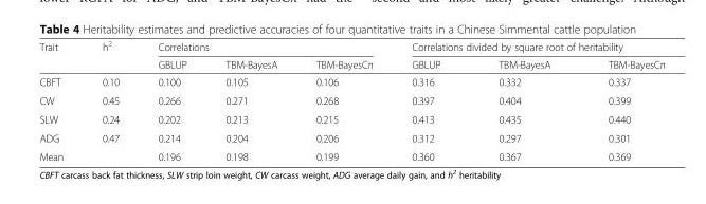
<table><thead><tr><td rowspan="2">Trait</td><td rowspan="2">h<sup>2</sup></td><td colspan="3">Correlations</td><td colspan="3">Correlations divided by square root of heritability</td></tr><tr><td>GBLUP</td><td>TBM-BayesA</td><td>TBM-BayesCπ</td><td>GBLUP</td><td>TBM-BayesA</td><td>TBM-BayesCπ</td></tr></thead><tbody><tr><td>CBFT</td><td>0.10</td><td>0.100</td><td>0.105</td><td>0.106</td><td>0.316</td><td>0.332</td><td>0.337</td></tr><tr><td>CW</td><td>0.45</td><td>0.266</td><td>0.271</td><td>0.268</td><td>0.397</td><td>0.404</td><td>0.399</td></tr><tr><td>SLW</td><td>0.24</td><td>0.202</td><td>0.213</td><td>0.215</td><td>0.413</td><td>0.435</td><td>0.440</td></tr><tr><td>ADG</td><td>0.47</td><td>0.214</td><td>0.204</td><td>0.206</td><td>0.312</td><td>0.297</td><td>0.301</td></tr><tr><td>Mean</td><td></td><td>0.196</td><td>0.198</td><td>0.199</td><td>0.360</td><td>0.367</td><td>0.369</td></tr></tbody></table>